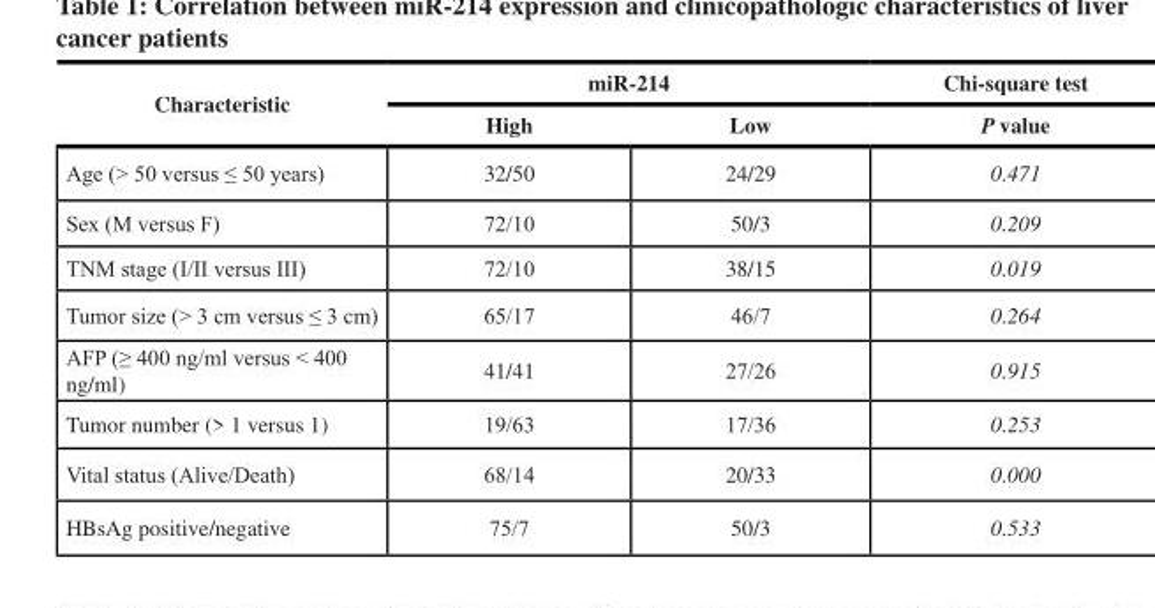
<table><thead><tr><td rowspan="2">Characteristic</td><td colspan="2">miR-214</td><td rowspan="2">Chi-square test P value</td></tr><tr><td>High</td><td>Low</td></tr></thead><tbody><tr><td>Age (&gt; 50 versus ≤ 50 years)</td><td>32/50</td><td>24/29</td><td>0.471</td></tr><tr><td>Sex (M versus F)</td><td>72/10</td><td>50/3</td><td>0.209</td></tr><tr><td>TNM stage (I/II versus III)</td><td>72/10</td><td>38/15</td><td>0.019</td></tr><tr><td>Tumor size (&gt; 3 cm versus ≤ 3 cm)</td><td>65/17</td><td>46/7</td><td>0.264</td></tr><tr><td>AFP (≥ 400 ng/ml versus &lt; 400 ng/ml)</td><td>41/41</td><td>27/26</td><td>0.915</td></tr><tr><td>Tumor number (&gt; 1 versus 1)</td><td>19/63</td><td>17/36</td><td>0.253</td></tr><tr><td>Vital status (Alive/Death)</td><td>68/14</td><td>20/33</td><td>0.000</td></tr><tr><td>HBsAg positive/negative</td><td>75/7</td><td>50/3</td><td>0.533</td></tr></tbody></table>